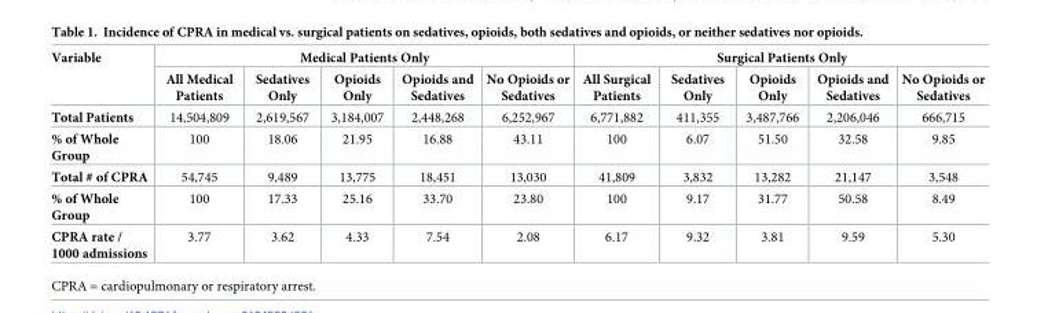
<table><thead><tr><td rowspan="2">Variable</td><td colspan="5">Medical Patients Only</td><td colspan="5">Surgical Patients Only</td></tr><tr><td>All Medical Patients</td><td>Sedatives Only</td><td>Opioids Only</td><td>Opioids and Sedatives</td><td>No Opioids or Sedatives</td><td>All Surgical Patients</td><td>Sedatives Only</td><td>Opioids Only</td><td>Opioids and Sedatives</td><td>No Opioids or Sedatives</td></tr></thead><tbody><tr><td>Total Patients</td><td>14,504,809</td><td>2,619,567</td><td>3,184,007</td><td>2,448,268</td><td>6,252,967</td><td>6,771,882</td><td>411,355</td><td>3,487,766</td><td>2,206,046</td><td>666,715</td></tr><tr><td>% of Whole Group</td><td>100</td><td>18.06</td><td>21.95</td><td>16.88</td><td>43.11</td><td>100</td><td>6.07</td><td>51.50</td><td>32.58</td><td>9.85</td></tr><tr><td>Total # of CPRA</td><td>54,745</td><td>9,489</td><td>13,775</td><td>18,451</td><td>13,030</td><td>41,809</td><td>3,832</td><td>13,282</td><td>21,147</td><td>3,548</td></tr><tr><td>% of Whole Group</td><td>100</td><td>17.33</td><td>25.16</td><td>33.70</td><td>23.80</td><td>100</td><td>9.17</td><td>31.77</td><td>50.58</td><td>8.49</td></tr><tr><td>CPRA rate / 1000 admissions</td><td>3.77</td><td>3.62</td><td>4.33</td><td>7.54</td><td>2.08</td><td>6.17</td><td>9.32</td><td>3.81</td><td>9.59</td><td>5.30</td></tr></tbody></table>